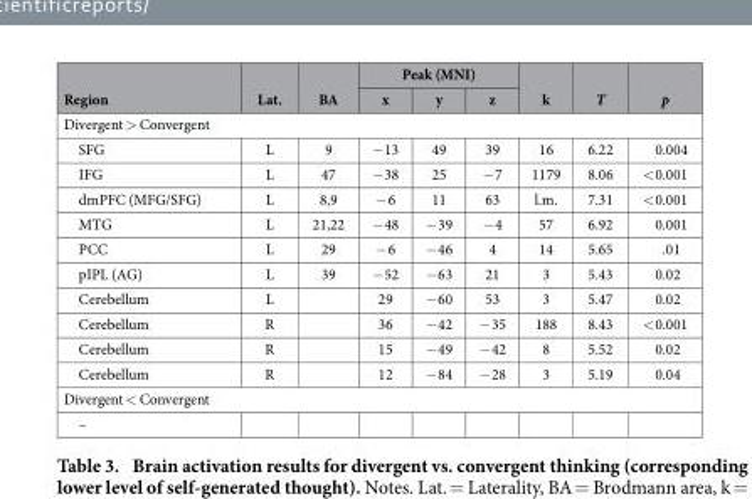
<table><thead><tr><td rowspan="2">Region</td><td rowspan="2">Lat.</td><td rowspan="2">BA</td><td colspan="3">Peak (MNI)</td><td rowspan="2">k</td><td rowspan="2">T</td><td rowspan="2">p</td></tr><tr><td>x</td><td>y</td><td>z</td></tr></thead><tbody><tr><td colspan="9">Divergent &gt; Convergent</td></tr><tr><td>SFG</td><td>L</td><td>9</td><td>− 13</td><td>49</td><td>39</td><td>16</td><td>6.22</td><td>0.004</td></tr><tr><td>IFG</td><td>L</td><td>47</td><td>− 38</td><td>25</td><td>− 7</td><td>1179</td><td>8.06</td><td>&lt; 0.001</td></tr><tr><td>dmPFC (MFG/SFG)</td><td>L</td><td>8,9</td><td>− 6</td><td>11</td><td>63</td><td>l.m.</td><td>7.31</td><td>&lt; 0.001</td></tr><tr><td>MTG</td><td>L</td><td>21,22</td><td>− 48</td><td>− 39</td><td>− 4</td><td>57</td><td>6.92</td><td>0.001</td></tr><tr><td>PCC</td><td>L</td><td>29</td><td>− 6</td><td>− 46</td><td>4</td><td>14</td><td>5.65</td><td>.01</td></tr><tr><td>pIPL (AG)</td><td>L</td><td>39</td><td>− 52</td><td>− 63</td><td>21</td><td>3</td><td>5.43</td><td>0.02</td></tr><tr><td>Cerebellum</td><td>L</td><td></td><td>29</td><td>− 60</td><td>53</td><td>3</td><td>5.47</td><td>0.02</td></tr><tr><td>Cerebellum</td><td>R</td><td></td><td>36</td><td>− 42</td><td>− 35</td><td>188</td><td>8.43</td><td>&lt; 0.001</td></tr><tr><td>Cerebellum</td><td>R</td><td></td><td>15</td><td>− 49</td><td>− 42</td><td>8</td><td>5.52</td><td>0.02</td></tr><tr><td>Cerebellum</td><td>R</td><td></td><td>12</td><td>− 84</td><td>− 28</td><td>3</td><td>5.19</td><td>0.04</td></tr><tr><td colspan="9">Divergent &lt; Convergent</td></tr><tr><td>–</td><td></td><td></td><td></td><td></td><td></td><td></td><td></td><td></td></tr></tbody></table>